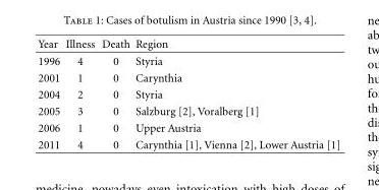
<table><thead><tr><td>Year</td><td>Illness</td><td>Death</td><td>Region</td></tr></thead><tbody><tr><td>1996</td><td>4</td><td>0</td><td>Styria</td></tr><tr><td>2001</td><td>1</td><td>0</td><td>Carynthia</td></tr><tr><td>2004</td><td>2</td><td>0</td><td>Styria</td></tr><tr><td>2005</td><td>3</td><td>0</td><td>Salzburg [2], Voralberg [1]</td></tr><tr><td>2006</td><td>1</td><td>0</td><td>Upper Austria</td></tr><tr><td>2011</td><td>4</td><td>0</td><td>Carynthia [1], Vienna [2], Lower Austria [1]</td></tr></tbody></table>